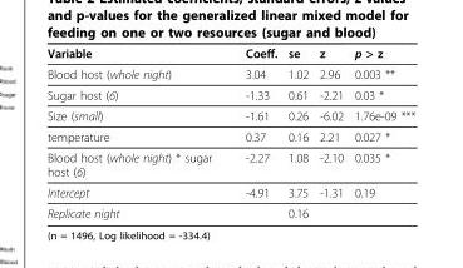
<table><thead><tr><td>Variable</td><td>Coeff.</td><td>se</td><td>z</td><td>p &gt; z</td></tr></thead><tbody><tr><td>Blood host (whole night)</td><td>3.04</td><td>1.02</td><td>2.96</td><td>0.003 **</td></tr><tr><td>Sugar host (6)</td><td>-1.33</td><td>0.61</td><td>-2.21</td><td>0.03 *</td></tr><tr><td>Size (small)</td><td>-1.61</td><td>0.26</td><td>-6.02</td><td>1.76e-09 ***</td></tr><tr><td>temperature</td><td>0.37</td><td>0.16</td><td>2.21</td><td>0.027 *</td></tr><tr><td>Blood host (whole night) * sugar host (6)</td><td>-2.27</td><td>1.08</td><td>-2.10</td><td>0.035 *</td></tr><tr><td>Intercept</td><td>-4.91</td><td>3.75</td><td>-1.31</td><td>0.19</td></tr><tr><td>Replicate night</td><td></td><td>0.16</td><td></td><td></td></tr></tbody></table>